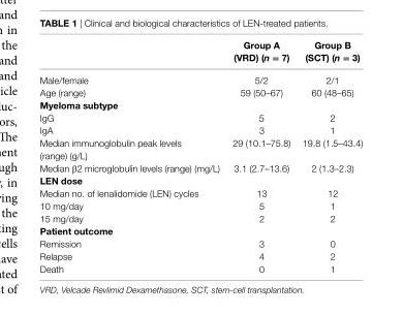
<table><thead><tr><td></td><td>group a (VrD) (n = 7)</td><td>group b (scT) (n = 3)</td></tr></thead><tbody><tr><td>Male/female</td><td>5/2</td><td>2/1</td></tr><tr><td>Age (range)</td><td>59 (50–67)</td><td>60 (48–65)</td></tr><tr><td colspan="3">Myeloma subtype</td></tr><tr><td>IgG</td><td>5</td><td>2</td></tr><tr><td>IgA</td><td>3</td><td>1</td></tr><tr><td>Median immunoglobulin peak levels (range) (g/L)</td><td>29 (10.1–75.8)</td><td>19.8 (1.5–43.4)</td></tr><tr><td>Median β2 microglobulin levels (range) (mg/L)</td><td>3.1 (2.7–13.6)</td><td>2 (1.3–2.3)</td></tr><tr><td colspan="3">len dose</td></tr><tr><td>Median no. of lenalidomide (LEN) cycles</td><td>13</td><td>12</td></tr><tr><td>10 mg/day</td><td>5</td><td>1</td></tr><tr><td>15 mg/day</td><td>2</td><td>2</td></tr><tr><td colspan="3">Patient outcome</td></tr><tr><td>Remission</td><td>3</td><td>0</td></tr><tr><td>Relapse</td><td>4</td><td>2</td></tr><tr><td>Death</td><td>0</td><td>1</td></tr></tbody></table>